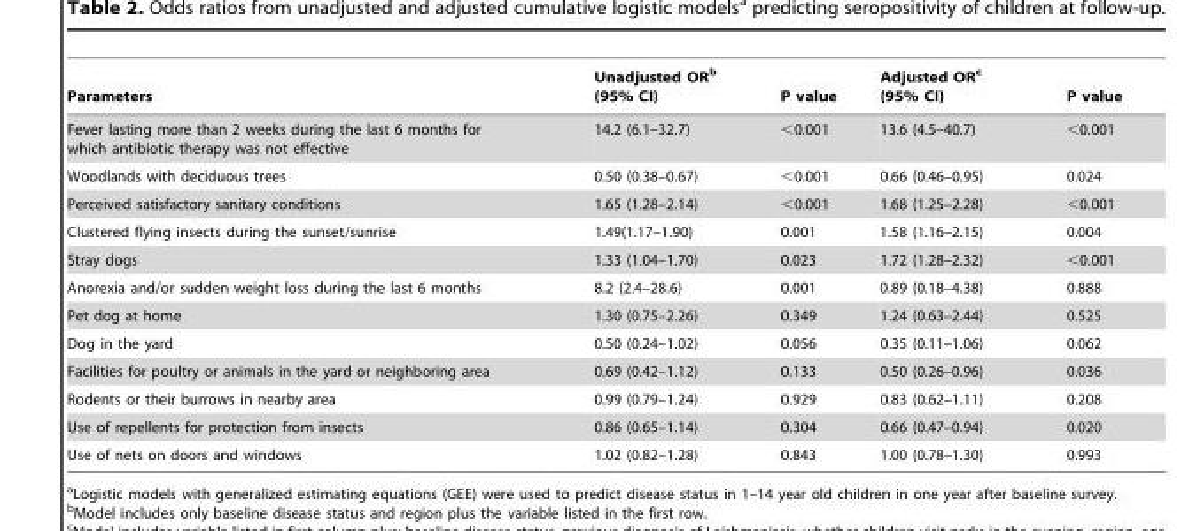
<table><thead><tr><td>Parameters</td><td>Unadjusted OR<sup>b</sup> (95% CI)</td><td>P value</td><td>Adjusted OR<sup>c</sup> (95% CI)</td><td>P value</td></tr></thead><tbody><tr><td>Fever lasting more than 2 weeks during the last 6 months for which antibiotic therapy was not effective</td><td>14.2 (6.1–32.7)</td><td>&lt;0.001</td><td>13.6 (4.5–40.7)</td><td>&lt;0.001</td></tr><tr><td>Woodlands with deciduous trees</td><td>0.50 (0.38–0.67)</td><td>&lt;0.001</td><td>0.66 (0.46–0.95)</td><td>0.024</td></tr><tr><td>Perceived satisfactory sanitary conditions</td><td>1.65 (1.28–2.14)</td><td>&lt;0.001</td><td>1.68 (1.25–2.28)</td><td>&lt;0.001</td></tr><tr><td>Clustered flying insects during the sunset/sunrise</td><td>1.49(1.17–1.90)</td><td>0.001</td><td>1.58 (1.16–2.15)</td><td>0.004</td></tr><tr><td>Stray dogs</td><td>1.33 (1.04–1.70)</td><td>0.023</td><td>1.72 (1.28–2.32)</td><td>&lt;0.001</td></tr><tr><td>Anorexia and/or sudden weight loss during the last 6 months</td><td>8.2 (2.4–28.6)</td><td>0.001</td><td>0.89 (0.18–4.38)</td><td>0.888</td></tr><tr><td>Pet dog at home</td><td>1.30 (0.75–2.26)</td><td>0.349</td><td>1.24 (0.63–2.44)</td><td>0.525</td></tr><tr><td>Dog in the yard</td><td>0.50 (0.24–1.02)</td><td>0.056</td><td>0.35 (0.11–1.06)</td><td>0.062</td></tr><tr><td>Facilities for poultry or animals in the yard or neighboring area</td><td>0.69 (0.42–1.12)</td><td>0.133</td><td>0.50 (0.26–0.96)</td><td>0.036</td></tr><tr><td>Rodents or their burrows in nearby area</td><td>0.99 (0.79–1.24)</td><td>0.929</td><td>0.83 (0.62–1.11)</td><td>0.208</td></tr><tr><td>Use of repellents for protection from insects</td><td>0.86 (0.65–1.14)</td><td>0.304</td><td>0.66 (0.47–0.94)</td><td>0.020</td></tr><tr><td>Use of nets on doors and windows</td><td>1.02 (0.82–1.28)</td><td>0.843</td><td>1.00 (0.78–1.30)</td><td>0.993</td></tr></tbody></table>